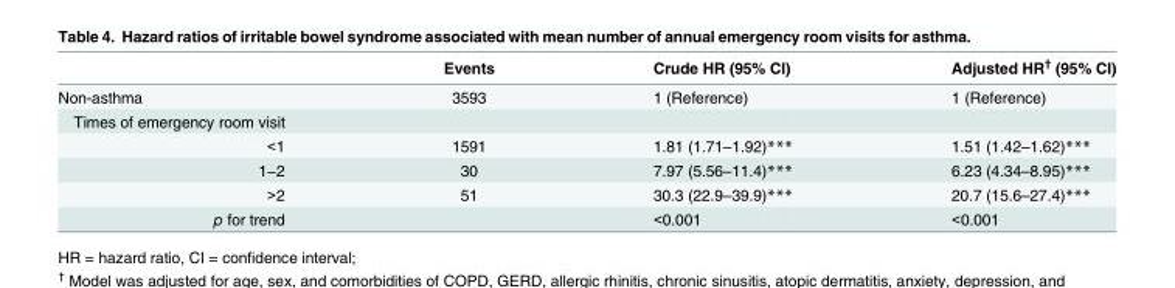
<table><thead><tr><td></td><td>Events</td><td>Crude HR (95% CI)</td><td>Adjusted HR<sup>†</sup> (95% CI)</td></tr></thead><tbody><tr><td>Non-asthma</td><td>3593</td><td>1 (Reference)</td><td>1 (Reference)</td></tr><tr><td colspan="4">Times of emergency room visit</td></tr><tr><td>&lt;1</td><td>1591</td><td>1.81 (1.71–1.92)***</td><td>1.51 (1.42–1.62)***</td></tr><tr><td>1−2</td><td>30</td><td>7.97 (5.56–11.4)***</td><td>6.23 (4.34–8.95)***</td></tr><tr><td>&gt;2</td><td>51</td><td>30.3 (22.9–39.9)***</td><td>20.7 (15.6–27.4)***</td></tr><tr><td>p for trend</td><td></td><td>&lt;0.001</td><td>&lt;0.001</td></tr></tbody></table>